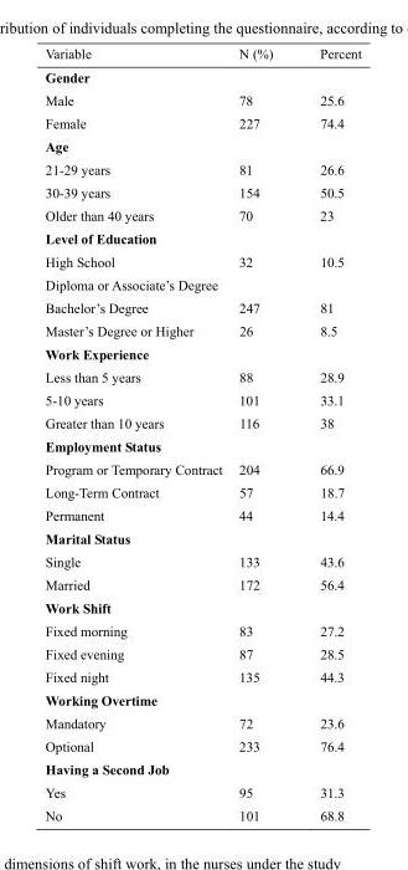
<table><thead><tr><td>Variable</td><td>N (%)</td><td>Percent</td></tr></thead><tbody><tr><td colspan="3">Gender</td></tr><tr><td>Male</td><td>78</td><td>25.6</td></tr><tr><td>Female</td><td>227</td><td>74.4</td></tr><tr><td colspan="3">Age</td></tr><tr><td>21-29 years</td><td>81</td><td>26.6</td></tr><tr><td>30-39 years</td><td>154</td><td>50.5</td></tr><tr><td>Older than 40 years</td><td>70</td><td>23</td></tr><tr><td colspan="3">Level of Education</td></tr><tr><td>High School Diploma or Associate’s Degree</td><td>32</td><td>10.5</td></tr><tr><td>Bachelor’s Degree</td><td>247</td><td>81</td></tr><tr><td>Master’s Degree or Higher</td><td>26</td><td>8.5</td></tr><tr><td colspan="3">Work Experience</td></tr><tr><td>Less than 5 years</td><td>88</td><td>28.9</td></tr><tr><td>5-10 years</td><td>101</td><td>33.1</td></tr><tr><td>Greater than 10 years</td><td>116</td><td>38</td></tr><tr><td colspan="3">Employment Status</td></tr><tr><td>Program or Temporary Contract</td><td>204</td><td>66.9</td></tr><tr><td>Long-Term Contract</td><td>57</td><td>18.7</td></tr><tr><td>Permanent</td><td>44</td><td>14.4</td></tr><tr><td colspan="3">Marital Status</td></tr><tr><td>Single</td><td>133</td><td>43.6</td></tr><tr><td>Married</td><td>172</td><td>56.4</td></tr><tr><td colspan="3">Work Shift</td></tr><tr><td>Fixed morning</td><td>83</td><td>27.2</td></tr><tr><td>Fixed evening</td><td>87</td><td>28.5</td></tr><tr><td>Fixed night</td><td>135</td><td>44.3</td></tr><tr><td colspan="3">Working Overtime</td></tr><tr><td>Mandatory</td><td>72</td><td>23.6</td></tr><tr><td>Optional</td><td>233</td><td>76.4</td></tr><tr><td colspan="3">Having a Second Job</td></tr><tr><td>Yes</td><td>95</td><td>31.3</td></tr><tr><td>No</td><td>101</td><td>68.8</td></tr></tbody></table>